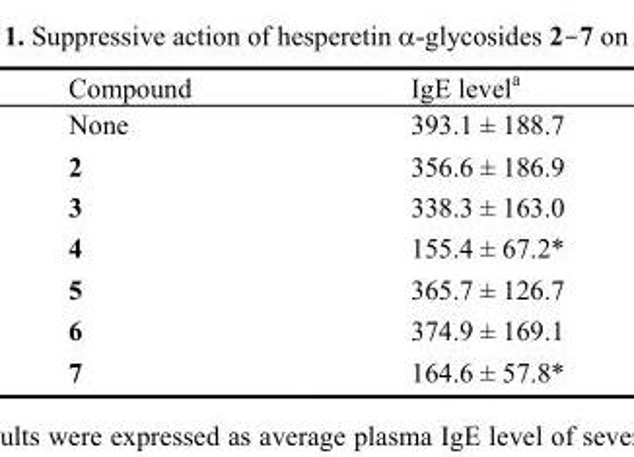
<table><thead><tr><td>Compound</td><td>IgE level<sup>a</sup></td></tr></thead><tbody><tr><td>None</td><td>393.1 ± 188.7</td></tr><tr><td>2</td><td>356.6 ± 186.9</td></tr><tr><td>3</td><td>338.3 ± 163.0</td></tr><tr><td>4</td><td>155.4 ± 67.2*</td></tr><tr><td>5</td><td>365.7 ± 126.7</td></tr><tr><td>6</td><td>374.9 ± 169.1</td></tr><tr><td>7</td><td>164.6 ± 57.8*</td></tr></tbody></table>